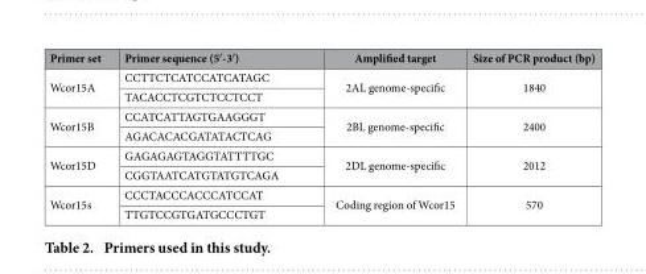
<table><thead><tr><td>Primer set</td><td>Primer sequence (5′ -3′ )</td><td>Amplified target</td><td>Size of PCR product (bp)</td></tr></thead><tbody><tr><td rowspan="2">Wcor15A</td><td>CCTTCTCATCCATCATAGC</td><td rowspan="2">2AL genome-specific</td><td rowspan="2">1840</td></tr><tr><td>TACACCTCGTCTCCTCCT</td></tr><tr><td rowspan="2">Wcor15B</td><td>CCATCATTAGTGAAGGGT</td><td rowspan="2">2BL genome-specific</td><td rowspan="2">2400</td></tr><tr><td>AGACACACGATATACTCAG</td></tr><tr><td rowspan="2">Wcor15D</td><td>GAGAGAGTAGGTATTTTGC</td><td rowspan="2">2DL genome-specific</td><td rowspan="2">2012</td></tr><tr><td>CGGTAATCATGTATGTCAGA</td></tr><tr><td rowspan="2">Wcor15s</td><td>CCCTACCCACCCATCCAT</td><td rowspan="2">Coding region of Wcor15</td><td rowspan="2">570</td></tr><tr><td>TTGTCCGTGATGCCCTGT</td></tr></tbody></table>